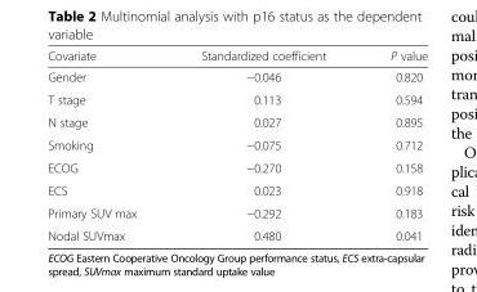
<table><thead><tr><td>Covariate</td><td>Standardized coefficient</td><td>P value</td></tr></thead><tbody><tr><td>Gender</td><td>−0.046</td><td>0.820</td></tr><tr><td>T stage</td><td>0.113</td><td>0.594</td></tr><tr><td>N stage</td><td>0.027</td><td>0.895</td></tr><tr><td>Smoking</td><td>−0.075</td><td>0.712</td></tr><tr><td>ECOG</td><td>−0.270</td><td>0.158</td></tr><tr><td>ECS</td><td>0.023</td><td>0.918</td></tr><tr><td>Primary SUV max</td><td>−0.292</td><td>0.183</td></tr><tr><td>Nodal SUVmax</td><td>0.480</td><td>0.041</td></tr></tbody></table>